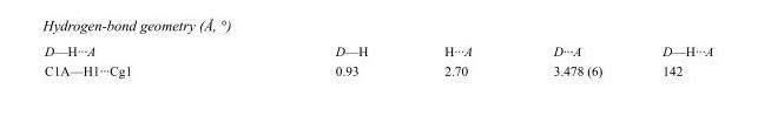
<table><tbody><tr><td>D—H···A</td><td>D—H</td><td>H···A</td><td>D···A</td><td>D—H···A</td></tr><tr><td>C1A—H1···Cg1</td><td>0.93</td><td>2.70</td><td>3.478 (6)</td><td>142</td></tr></tbody></table>